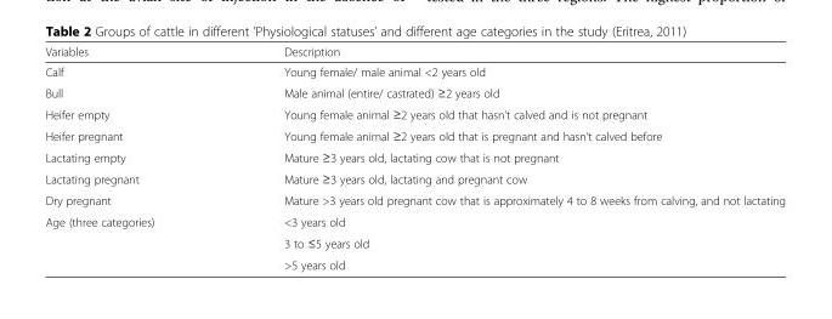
<table><thead><tr><td>Variables</td><td>Description</td></tr></thead><tbody><tr><td>Calf</td><td>Young female/ male animal &lt;2 years old</td></tr><tr><td>Bull</td><td>Male animal (entire/ castrated) ≥2 years old</td></tr><tr><td>Heifer empty</td><td>Young female animal ≥2 years old that hasn’t calved and is not pregnant</td></tr><tr><td>Heifer pregnant</td><td>Young female animal ≥2 years old that is pregnant and hasn’t calved before</td></tr><tr><td>Lactating empty</td><td>Mature ≥3 years old, lactating cow that is not pregnant</td></tr><tr><td>Lactating pregnant</td><td>Mature ≥3 years old, lactating and pregnant cow</td></tr><tr><td>Dry pregnant</td><td>Mature &gt;3 years old pregnant cow that is approximately 4 to 8 weeks from calving, and not lactating</td></tr><tr><td rowspan="3">Age (three categories)</td><td>&lt;3 years old</td></tr><tr><td>3 to ≤5 years old</td></tr><tr><td>&gt;5 years old</td></tr></tbody></table>